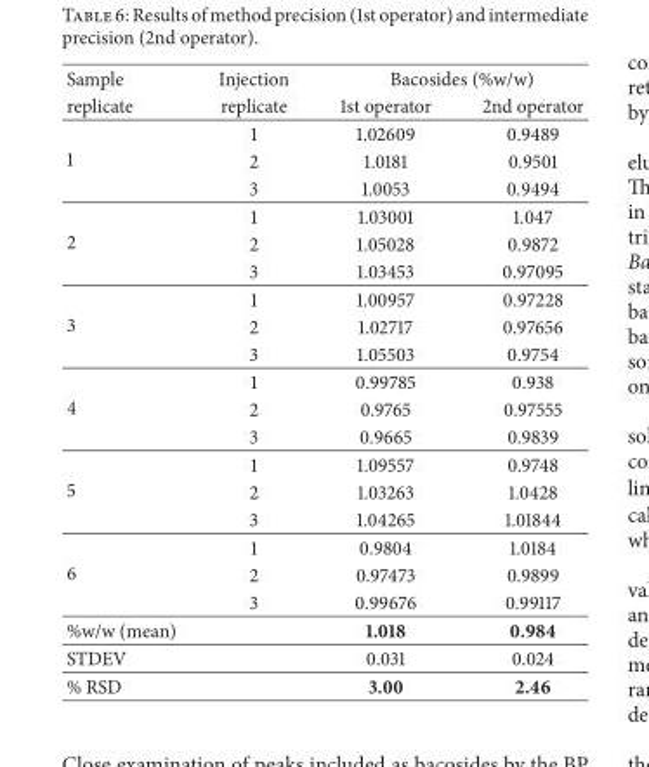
<table><thead><tr><td rowspan="2">Sample replicate</td><td rowspan="2">Injection replicate</td><td colspan="2">Bacosides (%w/w)</td></tr><tr><td>1st operator</td><td>2nd operator</td></tr></thead><tbody><tr><td rowspan="3">1</td><td>1</td><td>1.02609</td><td>0.9489</td></tr><tr><td>2</td><td>1.0181</td><td>0.9501</td></tr><tr><td>3</td><td>1.0053</td><td>0.9494</td></tr><tr><td rowspan="3">2</td><td>1</td><td>1.03001</td><td>1.047</td></tr><tr><td>2</td><td>1.05028</td><td>0.9872</td></tr><tr><td>3</td><td>1.03453</td><td>0.97095</td></tr><tr><td rowspan="3">3</td><td>1</td><td>1.00957</td><td>0.97228</td></tr><tr><td>2</td><td>1.02717</td><td>0.97656</td></tr><tr><td>3</td><td>1.05503</td><td>0.9754</td></tr><tr><td rowspan="3">4</td><td>1</td><td>0.99785</td><td>0.938</td></tr><tr><td>2</td><td>0.9765</td><td>0.97555</td></tr><tr><td>3</td><td>0.9665</td><td>0.9839</td></tr><tr><td rowspan="3">5</td><td>1</td><td>1.09557</td><td>0.9748</td></tr><tr><td>2</td><td>1.03263</td><td>1.0428</td></tr><tr><td>3</td><td>1.04265</td><td>1.01844</td></tr><tr><td rowspan="3">6</td><td>1</td><td>0.9804</td><td>1.0184</td></tr><tr><td>2</td><td>0.97473</td><td>0.9899</td></tr><tr><td>3</td><td>0.99676</td><td>0.99117</td></tr><tr><td>%w/w (mean)</td><td></td><td>1.018</td><td>0.984</td></tr><tr><td>STDEV</td><td></td><td>0.031</td><td>0.024</td></tr><tr><td>% RSD</td><td></td><td>3.00</td><td>2.46</td></tr></tbody></table>